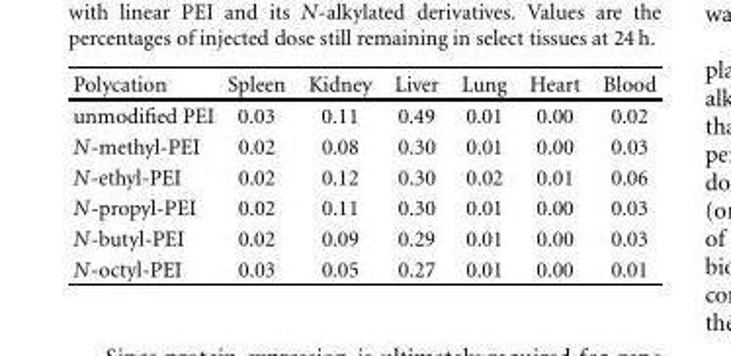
<table><thead><tr><td>Polycation</td><td>Spleen</td><td>Kidney</td><td>Liver</td><td>Lung</td><td>Heart</td><td>Blood</td></tr></thead><tbody><tr><td>unmodified PEI</td><td>0.03</td><td>0.11</td><td>0.49</td><td>0.01</td><td>0.00</td><td>0.02</td></tr><tr><td>N-methyl-PEI</td><td>0.02</td><td>0.08</td><td>0.30</td><td>0.01</td><td>0.00</td><td>0.03</td></tr><tr><td>N-ethyl-PEI</td><td>0.02</td><td>0.12</td><td>0.30</td><td>0.02</td><td>0.01</td><td>0.06</td></tr><tr><td>N-propyl-PEI</td><td>0.02</td><td>0.11</td><td>0.30</td><td>0.01</td><td>0.00</td><td>0.03</td></tr><tr><td>N-butyl-PEI</td><td>0.02</td><td>0.09</td><td>0.29</td><td>0.01</td><td>0.00</td><td>0.03</td></tr><tr><td>N-octyl-PEI</td><td>0.03</td><td>0.05</td><td>0.27</td><td>0.01</td><td>0.00</td><td>0.01</td></tr></tbody></table>